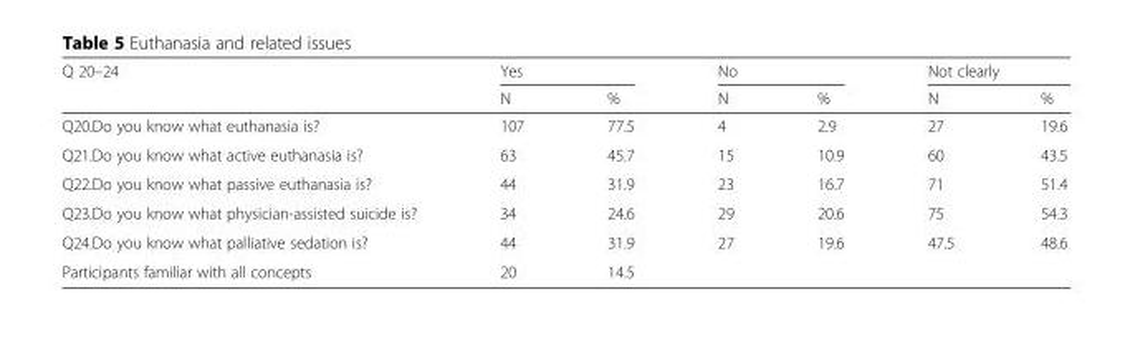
<table><thead><tr><td rowspan="2">Q 20–24</td><td colspan="2">Yes</td><td colspan="2">No</td><td colspan="2">Not clearly</td></tr><tr><td>N</td><td>%</td><td>N</td><td>%</td><td>N</td><td>%</td></tr></thead><tbody><tr><td>Q20.Do you know what euthanasia is?</td><td>107</td><td>77.5</td><td>4</td><td>2.9</td><td>27</td><td>19.6</td></tr><tr><td>Q21.Do you know what active euthanasia is?</td><td>63</td><td>45.7</td><td>15</td><td>10.9</td><td>60</td><td>43.5</td></tr><tr><td>Q22.Do you know what passive euthanasia is?</td><td>44</td><td>31.9</td><td>23</td><td>16.7</td><td>71</td><td>51.4</td></tr><tr><td>Q23.Do you know what physician-assisted suicide is?</td><td>34</td><td>24.6</td><td>29</td><td>20.6</td><td>75</td><td>54.3</td></tr><tr><td>Q24.Do you know what palliative sedation is?</td><td>44</td><td>31.9</td><td>27</td><td>19.6</td><td>47.5</td><td>48.6</td></tr><tr><td>Participants familiar with all concepts</td><td>20</td><td>14.5</td><td></td><td></td><td></td><td></td></tr></tbody></table>